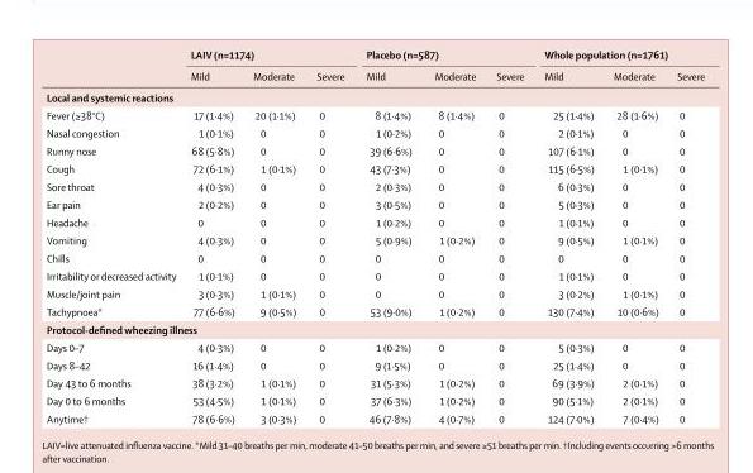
<table><thead><tr><td rowspan="2"></td><td colspan="3">LAIV (n=1174)</td><td colspan="3">Placebo (n=587)</td><td colspan="3">Whole population (n=1761)</td></tr><tr><td>Mild</td><td>Moderate</td><td>Severe</td><td>Mild</td><td>Moderate</td><td>Severe</td><td>Mild</td><td>Moderate</td><td>Severe</td></tr></thead><tbody><tr><td colspan="10">Local and systemic reactions</td></tr><tr><td>Fever (≥38°C)</td><td>17 (1·4%)</td><td>20 (1·1%)</td><td>0</td><td>8 (1·4%)</td><td>8 (1·4%)</td><td>0</td><td>25 (1·4%)</td><td>28 (1·6%)</td><td>0</td></tr><tr><td>Nasal congestion</td><td>1 (0·1%)</td><td>0</td><td>0</td><td>1 (0·2%)</td><td>0</td><td>0</td><td>2 (0·1%)</td><td>0</td><td>0</td></tr><tr><td>Runny nose</td><td>68 (5·8%)</td><td>0</td><td>0</td><td>39 (6·6%)</td><td>0</td><td>0</td><td>107 (6·1%)</td><td>0</td><td>0</td></tr><tr><td>Cough</td><td>72 (6·1%)</td><td>1 (0·1%)</td><td>0</td><td>43 (7·3%)</td><td>0</td><td>0</td><td>115 (6·5%)</td><td>1 (0·1%)</td><td>0</td></tr><tr><td>Sore throat</td><td>4 (0·3%)</td><td>0</td><td>0</td><td>2 (0·3%)</td><td>0</td><td>0</td><td>6 (0·3%)</td><td>0</td><td>0</td></tr><tr><td>Ear pain</td><td>2 (0·2%)</td><td>0</td><td>0</td><td>3 (0·5%)</td><td>0</td><td>0</td><td>5 (0·3%)</td><td>0</td><td>0</td></tr><tr><td>Headache</td><td>0</td><td>0</td><td>0</td><td>1 (0·2%)</td><td>0</td><td>0</td><td>1 (0·1%)</td><td>0</td><td>0</td></tr><tr><td>Vomiting</td><td>4 (0·3%)</td><td>0</td><td>0</td><td>5 (0·9%)</td><td>1 (0·2%)</td><td>0</td><td>9 (0·5%)</td><td>1 (0·1%)</td><td>0</td></tr><tr><td>Chills</td><td>0</td><td>0</td><td>0</td><td>0</td><td>0</td><td>0</td><td>0</td><td>0</td><td>0</td></tr><tr><td>Irritability or decreased activity</td><td>1 (0·1%)</td><td>0</td><td>0</td><td>0</td><td>0</td><td>0</td><td>1 (0·1%)</td><td>0</td><td>0</td></tr><tr><td>Muscle/joint pain</td><td>3 (0·3%)</td><td>1 (0·1%)</td><td>0</td><td>0</td><td>0</td><td>0</td><td>3 (0·2%)</td><td>1 (0·1%)</td><td>0</td></tr><tr><td>Tachypnoea*</td><td>77 (6·6%)</td><td>9 (0·5%)</td><td>0</td><td>53 (9·0%)</td><td>1 (0·2%)</td><td>0</td><td>130 (7·4%)</td><td>10 (0·6%)</td><td>0</td></tr><tr><td colspan="10">Protocol-defi ned wheezing illness</td></tr><tr><td>Days 0–7</td><td>4 (0·3%)</td><td>0</td><td>0</td><td>1 (0·2%)</td><td>0</td><td>0</td><td>5 (0·3%)</td><td>0</td><td>0</td></tr><tr><td>Days 8–42</td><td>16 (1·4%)</td><td>0</td><td>0</td><td>9 (1·5%)</td><td>0</td><td>0</td><td>25 (1·4%)</td><td>0</td><td>0</td></tr><tr><td>Day 43 to 6 months</td><td>38 (3·2%)</td><td>1 (0·1%)</td><td>0</td><td>31 (5·3%)</td><td>1 (0·2%)</td><td>0</td><td>69 (3·9%)</td><td>2 (0·1%)</td><td>0</td></tr><tr><td>Day 0 to 6 months</td><td>53 (4·5%)</td><td>1 (0·1%)</td><td>0</td><td>37 (6·3%)</td><td>1 (0·2%)</td><td>0</td><td>90 (5·1%)</td><td>2 (0·1%)</td><td>0</td></tr><tr><td>Anytime†</td><td>78 (6·6%)</td><td>3 (0·3%)</td><td>0</td><td>46 (7·8%)</td><td>4 (0·7%)</td><td>0</td><td>124 (7·0%)</td><td>7 (0·4%)</td><td>0</td></tr></tbody></table>